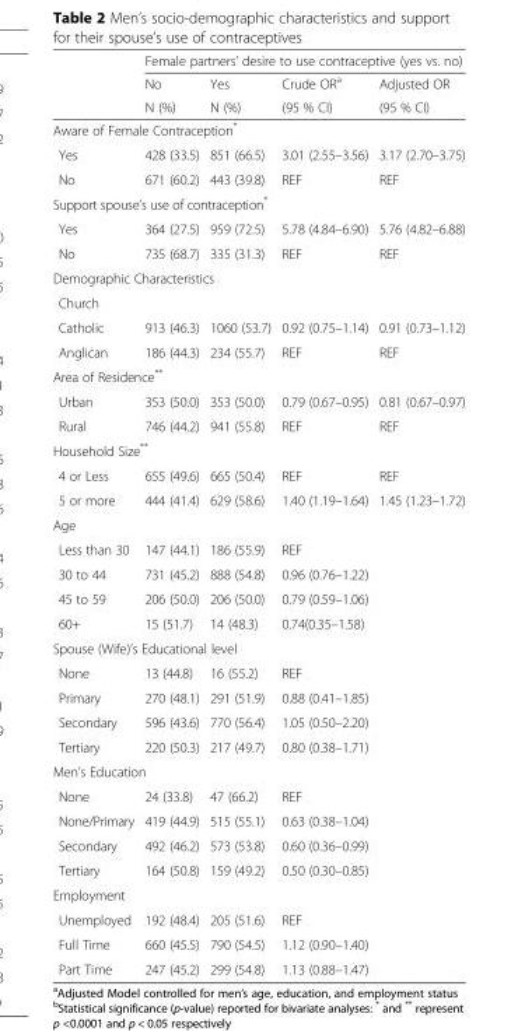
<table><thead><tr><td rowspan="3"></td><td colspan="4">Female partners’ desire to use contraceptive (yes vs. no)</td></tr><tr><td rowspan="2">No N (%)</td><td rowspan="2">Yes N (%)</td><td rowspan="2">Crude OR<sup>a</sup> (95 % CI)</td><td rowspan="2">Adjusted OR (95 % CI)</td></tr><tr></tr></thead><tbody><tr><td colspan="5">Aware of Female Contraception*</td></tr><tr><td>Yes</td><td>428 (33.5)</td><td>851 (66.5)</td><td>3.01 (2.55–3.56)</td><td>3.17 (2.70–3.75)</td></tr><tr><td>No</td><td>671 (60.2)</td><td>443 (39.8)</td><td>REF</td><td>REF</td></tr><tr><td colspan="5">Support spouse’s use of contraception*</td></tr><tr><td>Yes</td><td>364 (27.5)</td><td>959 (72.5)</td><td>5.78 (4.84–6.90)</td><td>5.76 (4.82–6.88)</td></tr><tr><td>No</td><td>735 (68.7)</td><td>335 (31.3)</td><td>REF</td><td>REF</td></tr><tr><td colspan="5">Demographic Characteristics</td></tr><tr><td colspan="5">Church</td></tr><tr><td>Catholic</td><td>913 (46.3)</td><td>1060 (53.7)</td><td>0.92 (0.75–1.14)</td><td>0.91 (0.73–1.12)</td></tr><tr><td>Anglican</td><td>186 (44.3)</td><td>234 (55.7)</td><td>REF</td><td>REF</td></tr><tr><td colspan="5">Area of Residence**</td></tr><tr><td>Urban</td><td>353 (50.0)</td><td>353 (50.0)</td><td>0.79 (0.67–0.95)</td><td>0.81 (0.67–0.97)</td></tr><tr><td>Rural</td><td>746 (44.2)</td><td>941 (55.8)</td><td>REF</td><td>REF</td></tr><tr><td colspan="5">Household Size**</td></tr><tr><td>4 or Less</td><td>655 (49.6)</td><td>665 (50.4)</td><td>REF</td><td>REF</td></tr><tr><td>5 or more</td><td>444 (41.4)</td><td>629 (58.6)</td><td>1.40 (1.19–1.64)</td><td>1.45 (1.23–1.72)</td></tr><tr><td colspan="5">Age</td></tr><tr><td>Less than 30</td><td>147 (44.1)</td><td>186 (55.9)</td><td>REF</td><td></td></tr><tr><td>30 to 44</td><td>731 (45.2)</td><td>888 (54.8)</td><td>0.96 (0.76–1.22)</td><td></td></tr><tr><td>45 to 59</td><td>206 (50.0)</td><td>206 (50.0)</td><td>0.79 (0.59–1.06)</td><td></td></tr><tr><td>60+</td><td>15 (51.7)</td><td>14 (48.3)</td><td>0.74(0.35–1.58)</td><td></td></tr><tr><td colspan="5">Spouse (Wife)’s Educational level</td></tr><tr><td>None</td><td>13 (44.8)</td><td>16 (55.2)</td><td>REF</td><td></td></tr><tr><td>Primary</td><td>270 (48.1)</td><td>291 (51.9)</td><td>0.88 (0.41–1.85)</td><td></td></tr><tr><td>Secondary</td><td>596 (43.6)</td><td>770 (56.4)</td><td>1.05 (0.50–2.20)</td><td></td></tr><tr><td>Tertiary</td><td>220 (50.3)</td><td>217 (49.7)</td><td>0.80 (0.38–1.71)</td><td></td></tr><tr><td colspan="5">Men’s Education</td></tr><tr><td>None</td><td>24 (33.8)</td><td>47 (66.2)</td><td>REF</td><td></td></tr><tr><td>None/Primary</td><td>419 (44.9)</td><td>515 (55.1)</td><td>0.63 (0.38–1.04)</td><td></td></tr><tr><td>Secondary</td><td>492 (46.2)</td><td>573 (53.8)</td><td>0.60 (0.36–0.99)</td><td></td></tr><tr><td>Tertiary</td><td>164 (50.8)</td><td>159 (49.2)</td><td>0.50 (0.30–0.85)</td><td></td></tr><tr><td colspan="5">Employment</td></tr><tr><td>Unemployed</td><td>192 (48.4)</td><td>205 (51.6)</td><td>REF</td><td></td></tr><tr><td>Full Time</td><td>660 (45.5)</td><td>790 (54.5)</td><td>1.12 (0.90–1.40)</td><td></td></tr><tr><td>Part Time</td><td>247 (45.2)</td><td>299 (54.8)</td><td>1.13 (0.88–1.47)</td><td></td></tr></tbody></table>